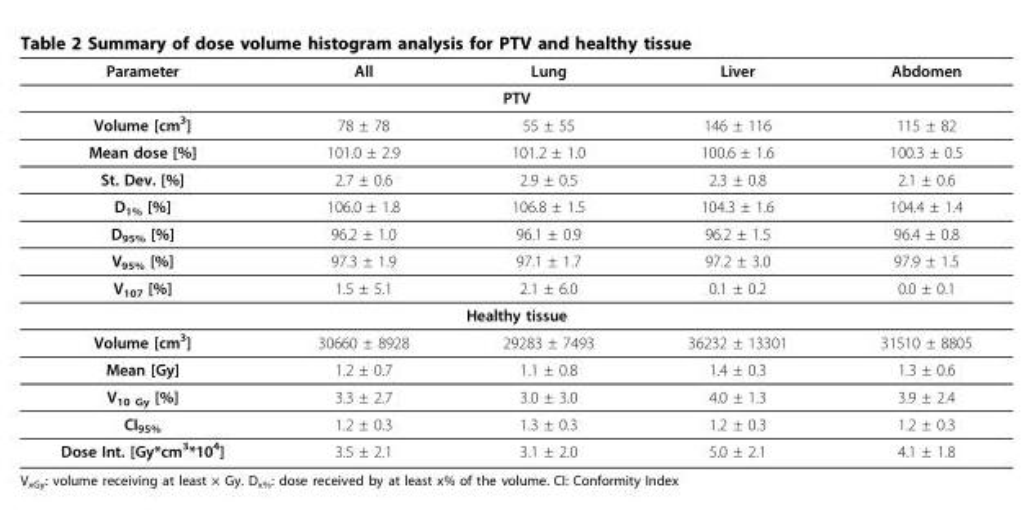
<table><thead><tr><td>Parameter</td><td>All</td><td>Lung</td><td>Liver</td><td>Abdomen</td></tr></thead><tbody><tr><td colspan="5">PTV</td></tr><tr><td>Volume [cm<sup>3</sup>]</td><td>78 ± 78</td><td>55 ± 55</td><td>146 ± 116</td><td>115 ± 82</td></tr><tr><td>Mean dose [%]</td><td>101.0 ± 2.9</td><td>101.2 ± 1.0</td><td>100.6 ± 1.6</td><td>100.3 ± 0.5</td></tr><tr><td>St. Dev. [%]</td><td>2.7 ± 0.6</td><td>2.9 ± 0.5</td><td>2.3 ± 0.8</td><td>2.1 ± 0.6</td></tr><tr><td>D<sub>1%</sub> [%]</td><td>106.0 ± 1.8</td><td>106.8 ± 1.5</td><td>104.3 ± 1.6</td><td>104.4 ± 1.4</td></tr><tr><td>D<sub>95%</sub> [%]</td><td>96.2 ± 1.0</td><td>96.1 ± 0.9</td><td>96.2 ± 1.5</td><td>96.4 ± 0.8</td></tr><tr><td>V<sub>95%</sub> [%]</td><td>97.3 ± 1.9</td><td>97.1 ± 1.7</td><td>97.2 ± 3.0</td><td>97.9 ± 1.5</td></tr><tr><td>V<sub>107</sub> [%]</td><td>1.5 ± 5.1</td><td>2.1 ± 6.0</td><td>0.1 ± 0.2</td><td>0.0 ± 0.1</td></tr><tr><td colspan="5">Healthy tissue</td></tr><tr><td>Volume [cm<sup>3</sup>]</td><td>30660 ± 8928</td><td>29283 ± 7493</td><td>36232 ± 13301</td><td>31510 ± 8805</td></tr><tr><td>Mean [Gy]</td><td>1.2 ± 0.7</td><td>1.1 ± 0.8</td><td>1.4 ± 0.3</td><td>1.3 ± 0.6</td></tr><tr><td>V<sub>10 Gy</sub> [%]</td><td>3.3 ± 2.7</td><td>3.0 ± 3.0</td><td>4.0 ± 1.3</td><td>3.9 ± 2.4</td></tr><tr><td>CI<sub>95%</sub></td><td>1.2 ± 0.3</td><td>1.3 ± 0.3</td><td>1.2 ± 0.3</td><td>1.2 ± 0.3</td></tr><tr><td>Dose Int. [Gy*cm<sup>3</sup>*10<sup>4</sup>]</td><td>3.5 ± 2.1</td><td>3.1 ± 2.0</td><td>5.0 ± 2.1</td><td>4.1 ± 1.8</td></tr></tbody></table>